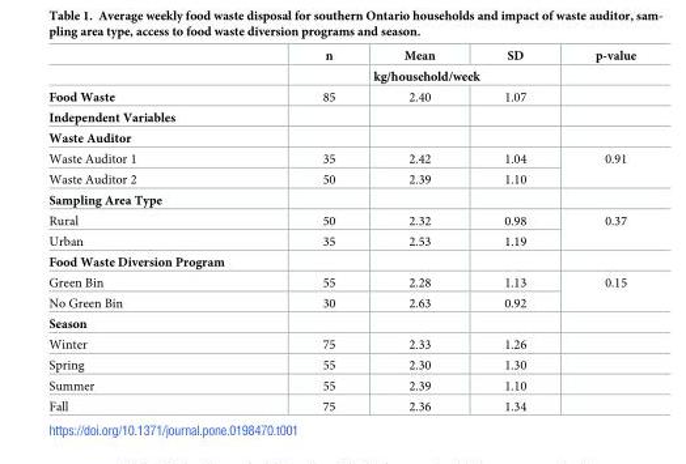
<table><thead><tr><td rowspan="2"></td><td rowspan="2">n</td><td>Mean</td><td>SD</td><td rowspan="2">p-value</td></tr><tr><td colspan="2">kg/household/week</td></tr></thead><tbody><tr><td>Food Waste</td><td>85</td><td>2.40</td><td>1.07</td><td></td></tr><tr><td colspan="5">Independent Variables</td></tr><tr><td colspan="5">Waste Auditor</td></tr><tr><td>Waste Auditor 1</td><td>35</td><td>2.42</td><td>1.04</td><td rowspan="2">0.91</td></tr><tr><td>Waste Auditor 2</td><td>50</td><td>2.39</td><td>1.10</td></tr><tr><td colspan="5">Sampling Area Type</td></tr><tr><td>Rural</td><td>50</td><td>2.32</td><td>0.98</td><td rowspan="2">0.37</td></tr><tr><td>Urban</td><td>35</td><td>2.53</td><td>1.19</td></tr><tr><td colspan="5">Food Waste Diversion Program</td></tr><tr><td>Green Bin</td><td>55</td><td>2.28</td><td>1.13</td><td rowspan="2">0.15</td></tr><tr><td>No Green Bin</td><td>30</td><td>2.63</td><td>0.92</td></tr><tr><td colspan="5">Season</td></tr><tr><td>Winter</td><td>75</td><td>2.33</td><td>1.26</td><td></td></tr><tr><td>Spring</td><td>55</td><td>2.30</td><td>1.30</td><td></td></tr><tr><td>Summer</td><td>55</td><td>2.39</td><td>1.10</td><td></td></tr><tr><td>Fall</td><td>75</td><td>2.36</td><td>1.34</td><td></td></tr></tbody></table>